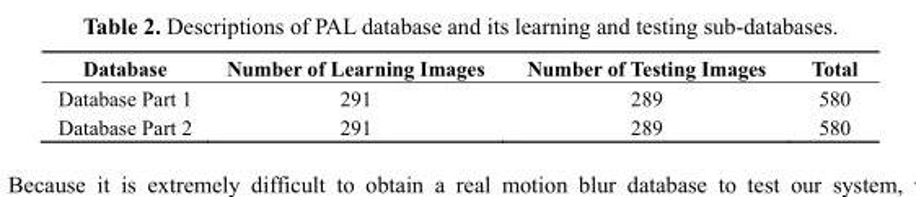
<table><thead><tr><td>Database</td><td>Number of Learning Images</td><td>Number of Testing Images</td><td>Total</td></tr></thead><tbody><tr><td>Database Part 1</td><td>291</td><td>289</td><td>580</td></tr><tr><td>Database Part 2</td><td>291</td><td>289</td><td>580</td></tr></tbody></table>